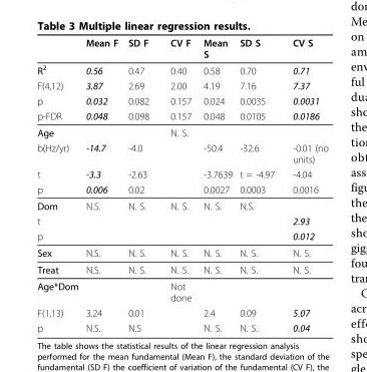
<table><thead><tr><td></td><td>Mean F</td><td>SD F</td><td>CV F</td><td>Mean S</td><td>SD S</td><td>CV S</td></tr></thead><tbody><tr><td>R<sup>2</sup></td><td>0.56</td><td>0.47</td><td>0.40</td><td>0.58</td><td>0.70</td><td>0.71</td></tr><tr><td>F(4,12)</td><td>3.87</td><td>2.69</td><td>2.00</td><td>4.19</td><td>7.16</td><td>7.37</td></tr><tr><td>p</td><td>0.032</td><td>0.082</td><td>0.157</td><td>0.024</td><td>0.0035</td><td>0.0031</td></tr><tr><td>p-FDR</td><td>0.048</td><td>0.098</td><td>0.157</td><td>0.048</td><td>0.0105</td><td>0.0186</td></tr><tr><td>Age</td><td></td><td></td><td>N. S.</td><td></td><td></td><td></td></tr><tr><td>b(Hz/yr)</td><td>-14.7</td><td>-4.0</td><td></td><td>-50.4</td><td>-32.6</td><td>-0.01 (no units)</td></tr><tr><td>t</td><td>-3.3</td><td>-2.63</td><td></td><td>-3.7639</td><td>t = -4.97</td><td>-4.04</td></tr><tr><td>p</td><td>0.006</td><td>0.02</td><td></td><td>0.0027</td><td>0.0003</td><td>0.0016</td></tr><tr><td>Dom</td><td>N.S.</td><td>N. S.</td><td>N. S.</td><td>N. S.</td><td>N.S.</td><td></td></tr><tr><td>t</td><td></td><td></td><td></td><td></td><td></td><td>2.93</td></tr><tr><td>p</td><td></td><td></td><td></td><td></td><td></td><td>0.012</td></tr><tr><td>Sex</td><td>N.S.</td><td>N. S.</td><td>N. S.</td><td>N. S.</td><td>N. S.</td><td>N. S.</td></tr><tr><td>Treat</td><td>N.S.</td><td>N. S.</td><td>N. S.</td><td>N. S.</td><td>N. S.</td><td>N. S.</td></tr><tr><td>Age*Dom</td><td></td><td></td><td>Not done</td><td></td><td></td><td></td></tr><tr><td>F(1,13)</td><td>3.24</td><td>0.01</td><td></td><td>2.4</td><td>0.09</td><td>5.07</td></tr><tr><td>p</td><td>N.S.</td><td>N.S</td><td></td><td>N. S.</td><td>N. S.</td><td>0.04</td></tr></tbody></table>